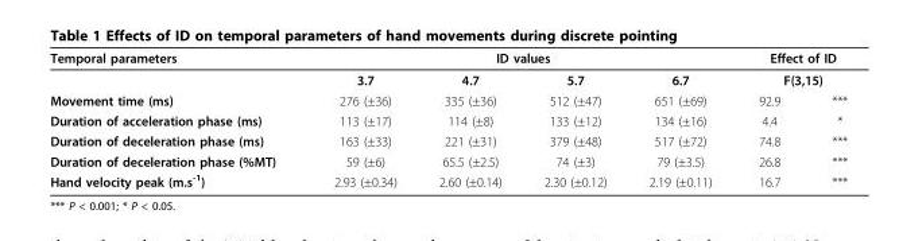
<table><thead><tr><td rowspan="3">Temporal parameters Movement time (ms)</td><td colspan="4">ID values</td><td rowspan="2" colspan="2">Effect of ID F(3,15)</td></tr><tr><td rowspan="2">3.7 276 (±36)</td><td rowspan="2">4.7 335 (±36)</td><td rowspan="2">5.7 512 (±47)</td><td rowspan="2">6.7 651 (±69)</td></tr><tr><td>92.9</td><td>***</td></tr></thead><tbody><tr><td>Duration of acceleration phase (ms)</td><td>113 (±17)</td><td>114 (±8)</td><td>133 (±12)</td><td>134 (±16)</td><td>4.4</td><td>*</td></tr><tr><td>Duration of deceleration phase (ms)</td><td>163 (±33)</td><td>221 (±31)</td><td>379 (±48)</td><td>517 (±72)</td><td>74.8</td><td>***</td></tr><tr><td>Duration of deceleration phase (%MT)</td><td>59 (±6)</td><td>65.5 (±2.5)</td><td>74 (±3)</td><td>79 (±3.5)</td><td>26.8</td><td>***</td></tr><tr><td>Hand velocity peak (m.s<sup>-1</sup>)</td><td>2.93 (±0.34)</td><td>2.60 (±0.14)</td><td>2.30 (±0.12)</td><td>2.19 (±0.11)</td><td>16.7</td><td>***</td></tr></tbody></table>